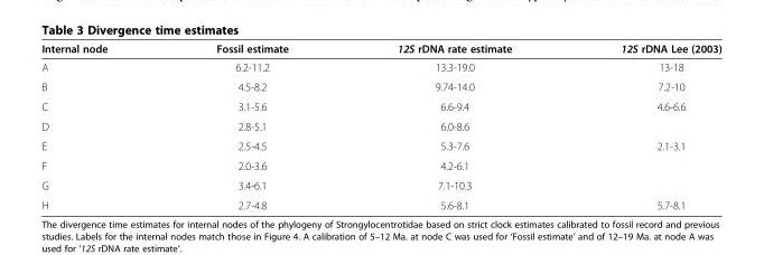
<table><thead><tr><td>Internal node</td><td>Fossil estimate</td><td>12S rDNA rate estimate</td><td>12S rDNA Lee (2003)</td></tr></thead><tbody><tr><td>A</td><td>6.2-11.2</td><td>13.3-19.0</td><td>13-18</td></tr><tr><td>B</td><td>4.5-8.2</td><td>9.74-14.0</td><td>7.2-10</td></tr><tr><td>C</td><td>3.1-5.6</td><td>6.6-9.4</td><td>4.6-6.6</td></tr><tr><td>D</td><td>2.8-5.1</td><td>6.0-8.6</td><td></td></tr><tr><td>E</td><td>2.5-4.5</td><td>5.3-7.6</td><td>2.1-3.1</td></tr><tr><td>F</td><td>2.0-3.6</td><td>4.2-6.1</td><td></td></tr><tr><td>G</td><td>3.4-6.1</td><td>7.1-10.3</td><td></td></tr><tr><td>H</td><td>2.7-4.8</td><td>5.6-8.1</td><td>5.7-8.1</td></tr></tbody></table>